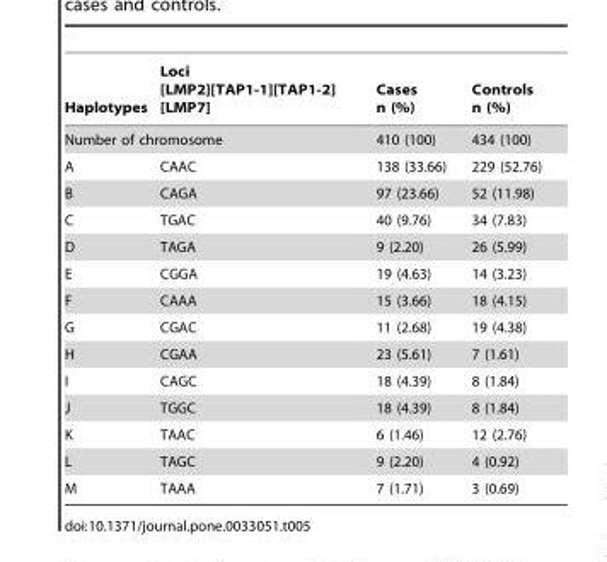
<table><thead><tr><td>Haplotypes</td><td>Loci [LMP2][TAP1-1][TAP1-2] [LMP7]</td><td>Cases n (%)</td><td>Controls n (%)</td></tr></thead><tbody><tr><td colspan="2">Number of chromosome</td><td>410 (100)</td><td>434 (100)</td></tr><tr><td>A</td><td>CAAC</td><td>138 (33.66)</td><td>229 (52.76)</td></tr><tr><td>B</td><td>CAGA</td><td>97 (23.66)</td><td>52 (11.98)</td></tr><tr><td>C</td><td>TGAC</td><td>40 (9.76)</td><td>34 (7.83)</td></tr><tr><td>D</td><td>TAGA</td><td>9 (2.20)</td><td>26 (5.99)</td></tr><tr><td>E</td><td>CGGA</td><td>19 (4.63)</td><td>14 (3.23)</td></tr><tr><td>F</td><td>CAAA</td><td>15 (3.66)</td><td>18 (4.15)</td></tr><tr><td>G</td><td>CGAC</td><td>11 (2.68)</td><td>19 (4.38)</td></tr><tr><td>H</td><td>CGAA</td><td>23 (5.61)</td><td>7 (1.61)</td></tr><tr><td>I</td><td>CAGC</td><td>18 (4.39)</td><td>8 (1.84)</td></tr><tr><td>J</td><td>TGGC</td><td>18 (4.39)</td><td>8 (1.84)</td></tr><tr><td>K</td><td>TAAC</td><td>6 (1.46)</td><td>12 (2.76)</td></tr><tr><td>L</td><td>TAGC</td><td>9 (2.20)</td><td>4 (0.92)</td></tr><tr><td>M</td><td>TAAA</td><td>7 (1.71)</td><td>3 (0.69)</td></tr></tbody></table>